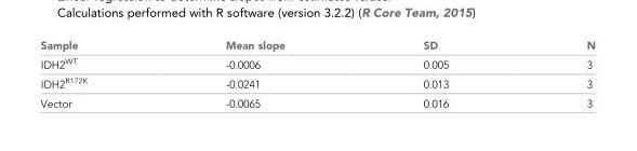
<table><thead><tr><td>Sample</td><td>Mean slope</td><td>SD</td><td>N</td></tr></thead><tbody><tr><td>IDH2<sup>WT</sup></td><td>-0.0006</td><td>0.005</td><td>3</td></tr><tr><td>IDH2<sup>R172K</sup></td><td>-0.0241</td><td>0.013</td><td>3</td></tr><tr><td>Vector</td><td>-0.0065</td><td>0.016</td><td>3</td></tr></tbody></table>